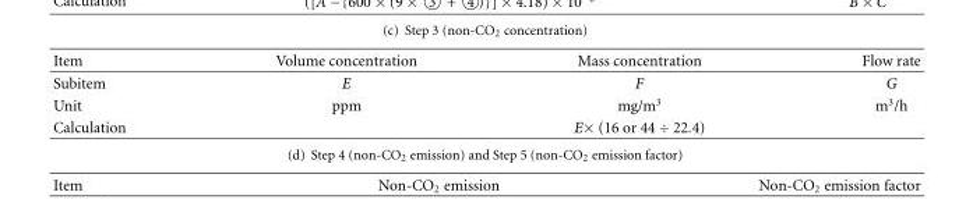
<table><thead><tr><td>Item</td><td>Volume concentration</td><td>Mass concentration</td><td>Flow rate</td></tr></thead><tbody><tr><td>Subitem</td><td>E</td><td>F</td><td>G</td></tr><tr><td>Unit</td><td>ppm</td><td>mg/m<sup>3</sup></td><td>m<sup>3</sup>/h</td></tr><tr><td>Calculation</td><td></td><td>E× (16 or 44 ÷ 22.4)</td><td></td></tr></tbody></table>